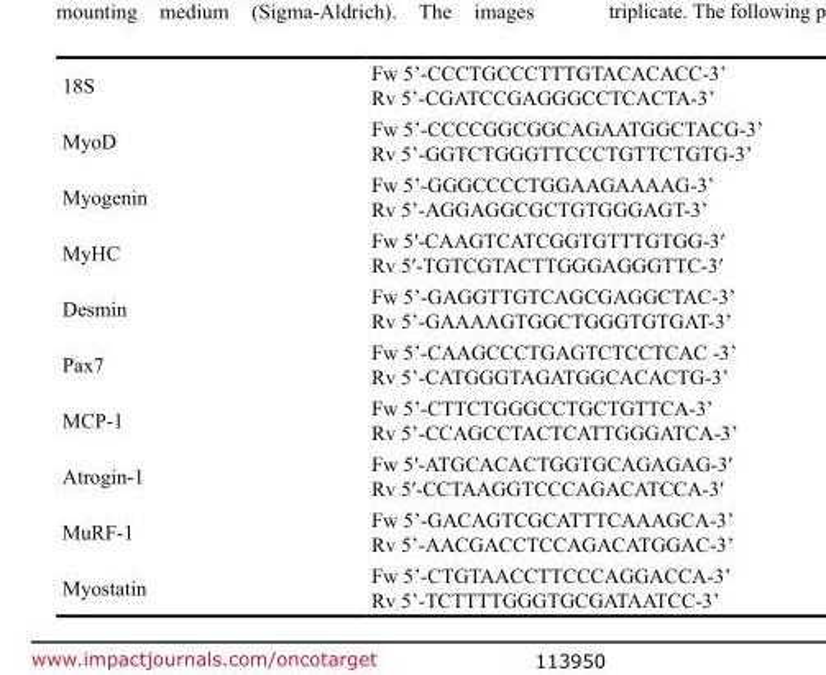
<table><tbody><tr><td>18S</td><td>Fw 5’-CCCTGCCCTTTGTACACACC-3’ Rv 5’-CGATCCGAGGGCCTCACTA-3’</td></tr><tr><td>MyoD</td><td>Fw 5’-CCCCGGCGGCAGAATGGCTACG-3’ Rv 5’-GGTCTGGGTTCCCTGTTCTGTG-3’</td></tr><tr><td>Myogenin</td><td>Fw 5’-GGGCCCCTGGAAGAAAAG-3’ Rv 5’-AGGAGGCGCTGTGGGAGT-3’</td></tr><tr><td>MyHC</td><td>Fw 5′-CAAGTCATCGGTGTTTGTGG-3′ Rv 5′-TGTCGTACTTGGGAGGGTTC-3′</td></tr><tr><td>Desmin</td><td>Fw 5’-GAGGTTGTCAGCGAGGCTAC-3’ Rv 5’-GAAAAGTGGCTGGGTGTGAT-3’</td></tr><tr><td>Pax7</td><td>Fw 5’-CAAGCCCTGAGTCTCCTCAC -3’ Rv 5’-CATGGGTAGATGGCACACTG-3’</td></tr><tr><td>MCP-1</td><td>Fw 5’-CTTCTGGGCCTGCTGTTCA-3’ Rv 5’-CCAGCCTACTCATTGGGATCA-3’</td></tr><tr><td>Atrogin-1</td><td>Fw 5′-ATGCACACTGGTGCAGAGAG-3′ Rv 5′-CCTAAGGTCCCAGACATCCA-3′</td></tr><tr><td>MuRF-1</td><td>Fw 5’-GACAGTCGCATTTCAAAGCA-3’ Rv 5’-AACGACCTCCAGACATGGAC-3’</td></tr><tr><td>Myostatin</td><td>Fw 5’-CTGTAACCTTCCCAGGACCA-3’ Rv 5’-TCTTTTGGGTGCGATAATCC-3’</td></tr></tbody></table>